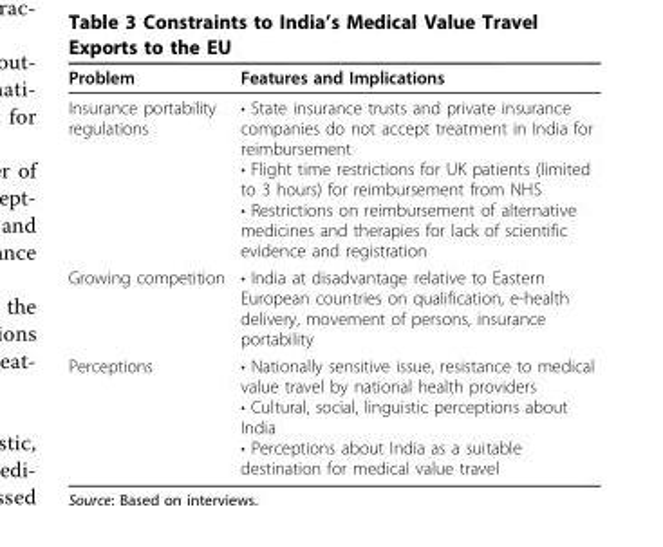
<table><thead><tr><td>Problem</td><td>Features and Implications</td></tr></thead><tbody><tr><td>Insurance portability regulations</td><td>• State insurance trusts and private insurance companies do not accept treatment in India for reimbursement • Flight time restrictions for UK patients (limited to 3 hours) for reimbursement from NHS • Restrictions on reimbursement of alternative medicines and therapies for lack of scientific evidence and registration</td></tr><tr><td>Growing competition</td><td>• India at disadvantage relative to Eastern European countries on qualification, e-health delivery, movement of persons, insurance portability</td></tr><tr><td>Perceptions</td><td>• Nationally sensitive issue, resistance to medical value travel by national health providers • Cultural, social, linguistic perceptions about India • Perceptions about India as a suitable destination for medical value travel</td></tr></tbody></table>